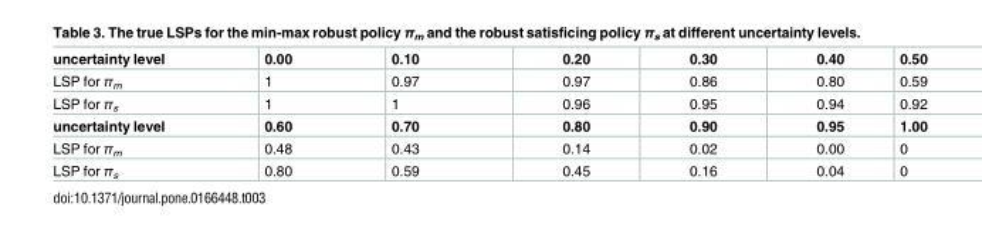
<table><tbody><tr><td>uncertainty level</td><td>0.00</td><td>0.10</td><td>0.20</td><td>0.30</td><td>0.40</td><td>0.50</td></tr><tr><td>LSP for π<sub>m</sub></td><td>1</td><td>0.97</td><td>0.97</td><td>0.86</td><td>0.80</td><td>0.59</td></tr><tr><td>LSP for π<sub>s</sub></td><td>1</td><td>1</td><td>0.96</td><td>0.95</td><td>0.94</td><td>0.92</td></tr><tr><td>uncertainty level</td><td>0.60</td><td>0.70</td><td>0.80</td><td>0.90</td><td>0.95</td><td>1.00</td></tr><tr><td>LSP for π<sub>m</sub></td><td>0.48</td><td>0.43</td><td>0.14</td><td>0.02</td><td>0.00</td><td>0</td></tr><tr><td>LSP for π<sub>s</sub></td><td>0.80</td><td>0.59</td><td>0.45</td><td>0.16</td><td>0.04</td><td>0</td></tr></tbody></table>